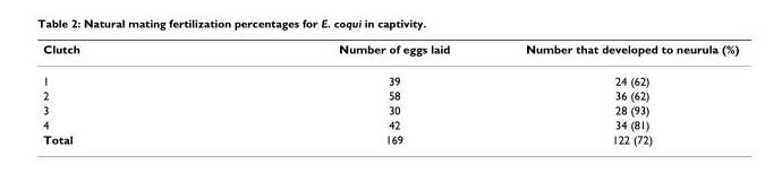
<table><thead><tr><td>Clutch</td><td>Number of eggs laid</td><td>Number that developed to neurula (%)</td></tr></thead><tbody><tr><td>1</td><td>39</td><td>24 (62)</td></tr><tr><td>2</td><td>58</td><td>36 (62)</td></tr><tr><td>3</td><td>30</td><td>28 (93)</td></tr><tr><td>4</td><td>42</td><td>34 (81)</td></tr><tr><td>Total</td><td>169</td><td>122 (72)</td></tr></tbody></table>